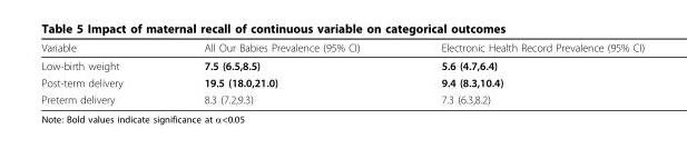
<table><thead><tr><td>Variable</td><td>All Our Babies Prevalence (95% CI)</td><td>Electronic Health Record Prevalence (95% CI)</td></tr></thead><tbody><tr><td>Low-birth weight</td><td>7.5 (6.5,8.5)</td><td>5.6 (4.7,6.4)</td></tr><tr><td>Post-term delivery</td><td>19.5 (18.0,21.0)</td><td>9.4 (8.3,10.4)</td></tr><tr><td>Preterm delivery</td><td>8.3 (7.2,9.3)</td><td>7.3 (6.3,8.2)</td></tr></tbody></table>